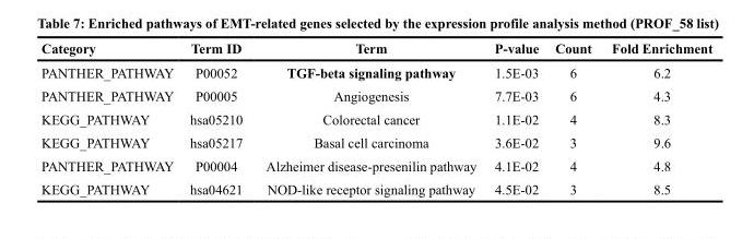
<table><thead><tr><td>Category</td><td>Term ID</td><td>Term</td><td>P-value</td><td>Count</td><td>Fold Enrichment</td></tr></thead><tbody><tr><td>PANTHER_PATHWAY</td><td>P00052</td><td>TGF-beta signaling pathway</td><td>1.5E-03</td><td>6</td><td>6.2</td></tr><tr><td>PANTHER_PATHWAY</td><td>P00005</td><td>Angiogenesis</td><td>7.7E-03</td><td>6</td><td>4.3</td></tr><tr><td>KEGG_PATHWAY</td><td>hsa05210</td><td>Colorectal cancer</td><td>1.1E-02</td><td>4</td><td>8.3</td></tr><tr><td>KEGG_PATHWAY</td><td>hsa05217</td><td>Basal cell carcinoma</td><td>3.6E-02</td><td>3</td><td>9.6</td></tr><tr><td>PANTHER_PATHWAY</td><td>P00004</td><td>Alzheimer disease-presenilin pathway</td><td>4.1E-02</td><td>4</td><td>4.8</td></tr><tr><td>KEGG_PATHWAY</td><td>hsa04621</td><td>NOD-like receptor signaling pathway</td><td>4.5E-02</td><td>3</td><td>8.5</td></tr></tbody></table>